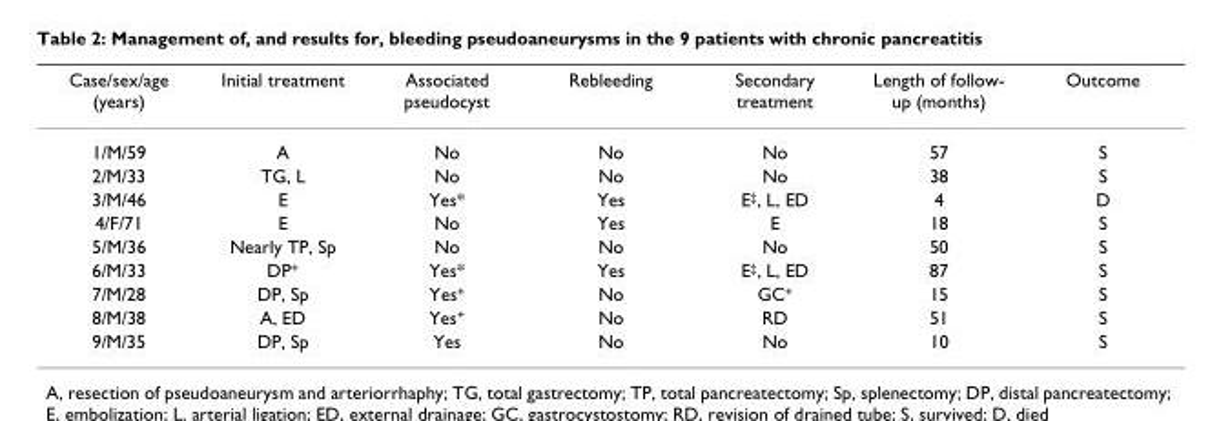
<table><thead><tr><td>Case/sex/age (years)</td><td>Initial treatment</td><td>Associated pseudocyst</td><td>Rebleeding</td><td>Secondary treatment</td><td>Length of follow- up (months)</td><td>Outcome</td></tr></thead><tbody><tr><td>1/M/59</td><td>A</td><td>No</td><td>No</td><td>No</td><td>57</td><td>S</td></tr><tr><td>2/M/33</td><td>TG, L</td><td>No</td><td>No</td><td>No</td><td>38</td><td>S</td></tr><tr><td>3/M/46</td><td>E</td><td>Yes*</td><td>Yes</td><td>E‡, L, ED</td><td>4</td><td>D</td></tr><tr><td>4/F/71</td><td>E</td><td>No</td><td>Yes</td><td>E</td><td>18</td><td>S</td></tr><tr><td>5/M/36</td><td>Nearly TP, Sp</td><td>No</td><td>No</td><td>No</td><td>50</td><td>S</td></tr><tr><td>6/M/33</td><td>DP+</td><td>Yes*</td><td>Yes</td><td>E‡, L, ED</td><td>87</td><td>S</td></tr><tr><td>7/M/28</td><td>DP, Sp</td><td>Yes+</td><td>No</td><td>GC+</td><td>15</td><td>S</td></tr><tr><td>8/M/38</td><td>A, ED</td><td>Yes+</td><td>No</td><td>RD</td><td>51</td><td>S</td></tr><tr><td>9/M/35</td><td>DP, Sp</td><td>Yes</td><td>No</td><td>No</td><td>10</td><td>S</td></tr></tbody></table>